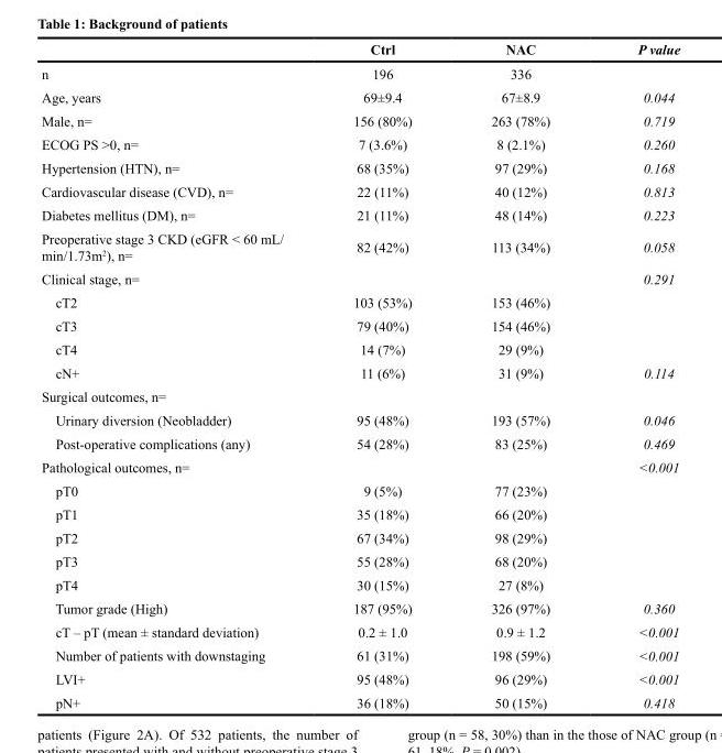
<table><thead><tr><td></td><td>Ctrl</td><td>NAC</td><td>P value</td></tr></thead><tbody><tr><td>n</td><td>196</td><td>336</td><td></td></tr><tr><td>Age, years</td><td>69±9.4</td><td>67±8.9</td><td>0.044</td></tr><tr><td>Male, n=</td><td>156 (80%)</td><td>263 (78%)</td><td>0.719</td></tr><tr><td>ECOG PS &gt;0, n=</td><td>7 (3.6%)</td><td>8 (2.1%)</td><td>0.260</td></tr><tr><td>Hypertension (HTN), n=</td><td>68 (35%)</td><td>97 (29%)</td><td>0.168</td></tr><tr><td>Cardiovascular disease (CVD), n=</td><td>22 (11%)</td><td>40 (12%)</td><td>0.813</td></tr><tr><td>Diabetes mellitus (DM), n=</td><td>21 (11%)</td><td>48 (14%)</td><td>0.223</td></tr><tr><td>Preoperative stage 3 CKD (eGFR &lt; 60 mL/ min/1.73m<sup>2</sup>), n=</td><td>82 (42%)</td><td>113 (34%)</td><td>0.058</td></tr><tr><td>Clinical stage, n=</td><td></td><td></td><td>0.291</td></tr><tr><td>cT2</td><td>103 (53%)</td><td>153 (46%)</td><td></td></tr><tr><td>cT3</td><td>79 (40%)</td><td>154 (46%)</td><td></td></tr><tr><td>cT4</td><td>14 (7%)</td><td>29 (9%)</td><td></td></tr><tr><td>cN+</td><td>11 (6%)</td><td>31 (9%)</td><td>0.114</td></tr><tr><td colspan="4">Surgical outcomes, n=</td></tr><tr><td>Urinary diversion (Neobladder)</td><td>95 (48%)</td><td>193 (57%)</td><td>0.046</td></tr><tr><td>Post-operative complications (any)</td><td>54 (28%)</td><td>83 (25%)</td><td>0.469</td></tr><tr><td>Pathological outcomes, n=</td><td></td><td></td><td>&lt;0.001</td></tr><tr><td>pT0</td><td>9 (5%)</td><td>77 (23%)</td><td></td></tr><tr><td>pT1</td><td>35 (18%)</td><td>66 (20%)</td><td></td></tr><tr><td>pT2</td><td>67 (34%)</td><td>98 (29%)</td><td></td></tr><tr><td>pT3</td><td>55 (28%)</td><td>68 (20%)</td><td></td></tr><tr><td>pT4</td><td>30 (15%)</td><td>27 (8%)</td><td></td></tr><tr><td>Tumor grade (High)</td><td>187 (95%)</td><td>326 (97%)</td><td>0.360</td></tr><tr><td>cT – pT (mean ± standard deviation)</td><td>0.2 ± 1.0</td><td>0.9 ± 1.2</td><td>&lt;0.001</td></tr><tr><td>Number of patients with downstaging</td><td>61 (31%)</td><td>198 (59%)</td><td>&lt;0.001</td></tr><tr><td>LVI+</td><td>95 (48%)</td><td>96 (29%)</td><td>&lt;0.001</td></tr><tr><td>pN+</td><td>36 (18%)</td><td>50 (15%)</td><td>0.418</td></tr></tbody></table>